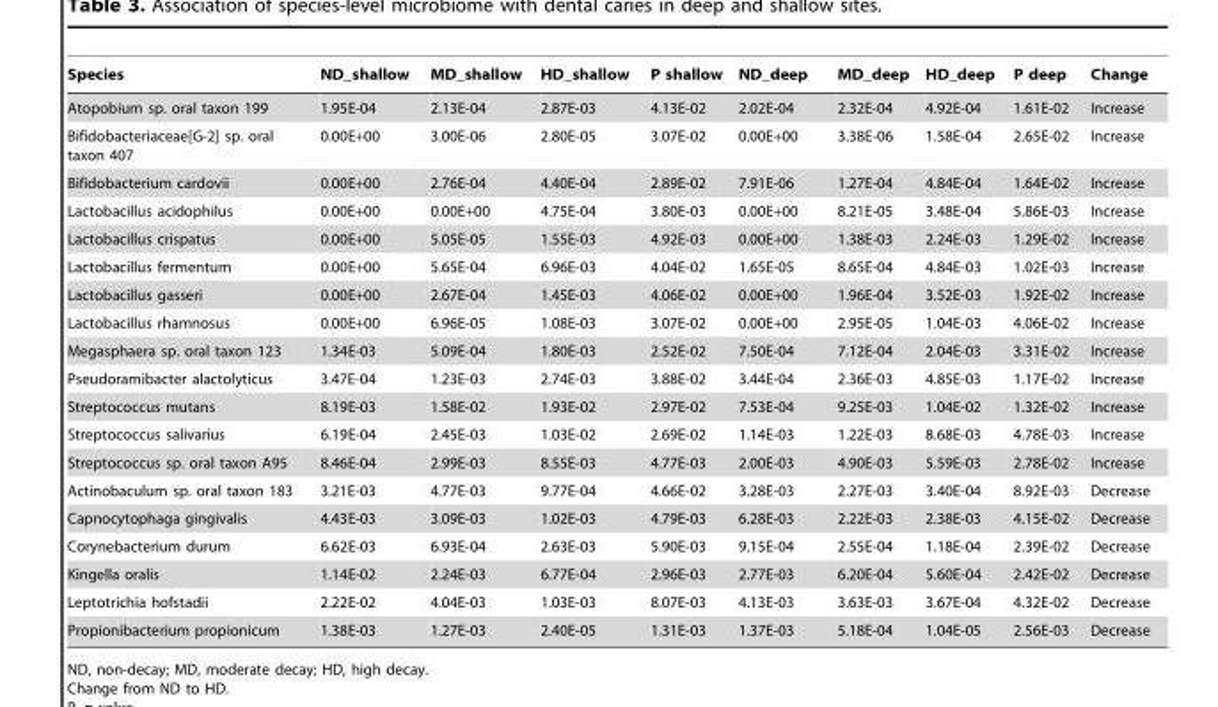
<table><thead><tr><td>Species</td><td>ND_shallow</td><td>MD_shallow</td><td>HD_shallow</td><td>P shallow</td><td>ND_deep</td><td>MD_deep</td><td>HD_deep</td><td>P deep</td><td>Change</td></tr></thead><tbody><tr><td>Atopobium sp. oral taxon 199</td><td>1.95E-04</td><td>2.13E-04</td><td>2.87E-03</td><td>4.13E-02</td><td>2.02E-04</td><td>2.32E-04</td><td>4.92E-04</td><td>1.61E-02</td><td>Increase</td></tr><tr><td>Bifidobacteriaceae[G-2] sp. oral taxon 407</td><td>0.00E+00</td><td>3.00E-06</td><td>2.80E-05</td><td>3.07E-02</td><td>0.00E+00</td><td>3.38E-06</td><td>1.58E-04</td><td>2.65E-02</td><td>Increase</td></tr><tr><td>Bifidobacterium cardovii</td><td>0.00E+00</td><td>2.76E-04</td><td>4.40E-04</td><td>2.89E-02</td><td>7.91E-06</td><td>1.27E-04</td><td>4.84E-04</td><td>1.64E-02</td><td>Increase</td></tr><tr><td>Lactobacillus acidophilus</td><td>0.00E+00</td><td>0.00E+00</td><td>4.75E-04</td><td>3.80E-03</td><td>0.00E+00</td><td>8.21E-05</td><td>3.48E-04</td><td>5.86E-03</td><td>Increase</td></tr><tr><td>Lactobacillus crispatus</td><td>0.00E+00</td><td>5.05E-05</td><td>1.55E-03</td><td>4.92E-03</td><td>0.00E+00</td><td>1.38E-03</td><td>2.24E-03</td><td>1.29E-02</td><td>Increase</td></tr><tr><td>Lactobacillus fermentum</td><td>0.00E+00</td><td>5.65E-04</td><td>6.96E-03</td><td>4.04E-02</td><td>1.65E-05</td><td>8.65E-04</td><td>4.84E-03</td><td>1.02E-03</td><td>Increase</td></tr><tr><td>Lactobacillus gasseri</td><td>0.00E+00</td><td>2.67E-04</td><td>1.45E-03</td><td>4.06E-02</td><td>0.00E+00</td><td>1.96E-04</td><td>3.52E-03</td><td>1.92E-02</td><td>Increase</td></tr><tr><td>Lactobacillus rhamnosus</td><td>0.00E+00</td><td>6.96E-05</td><td>1.08E-03</td><td>3.07E-02</td><td>0.00E+00</td><td>2.95E-05</td><td>1.04E-03</td><td>4.06E-02</td><td>Increase</td></tr><tr><td>Megasphaera sp. oral taxon 123</td><td>1.34E-03</td><td>5.09E-04</td><td>1.80E-03</td><td>2.52E-02</td><td>7.50E-04</td><td>7.12E-04</td><td>2.04E-03</td><td>3.31E-02</td><td>Increase</td></tr><tr><td>Pseudoramibacter alactolyticus</td><td>3.47E-04</td><td>1.23E-03</td><td>2.74E-03</td><td>3.88E-02</td><td>3.44E-04</td><td>2.36E-03</td><td>4.85E-03</td><td>1.17E-02</td><td>Increase</td></tr><tr><td>Streptococcus mutans</td><td>8.19E-03</td><td>1.58E-02</td><td>1.93E-02</td><td>2.97E-02</td><td>7.53E-04</td><td>9.25E-03</td><td>1.04E-02</td><td>1.32E-02</td><td>Increase</td></tr><tr><td>Streptococcus salivarius</td><td>6.19E-04</td><td>2.45E-03</td><td>1.03E-02</td><td>2.69E-02</td><td>1.14E-03</td><td>1.22E-03</td><td>8.68E-03</td><td>4.78E-03</td><td>Increase</td></tr><tr><td>Streptococcus sp. oral taxon A95</td><td>8.46E-04</td><td>2.99E-03</td><td>8.55E-03</td><td>4.77E-03</td><td>2.00E-03</td><td>4.90E-03</td><td>5.59E-03</td><td>2.78E-02</td><td>Increase</td></tr><tr><td>Actinobaculum sp. oral taxon 183</td><td>3.21E-03</td><td>4.77E-03</td><td>9.77E-04</td><td>4.66E-02</td><td>3.28E-03</td><td>2.27E-03</td><td>3.40E-04</td><td>8.92E-03</td><td>Decrease</td></tr><tr><td>Capnocytophaga gingivalis</td><td>4.43E-03</td><td>3.09E-03</td><td>1.02E-03</td><td>4.79E-03</td><td>6.28E-03</td><td>2.22E-03</td><td>2.38E-03</td><td>4.15E-02</td><td>Decrease</td></tr><tr><td>Corynebacterium durum</td><td>6.62E-03</td><td>6.93E-04</td><td>2.63E-03</td><td>5.90E-03</td><td>9.15E-04</td><td>2.55E-04</td><td>1.18E-04</td><td>2.39E-02</td><td>Decrease</td></tr><tr><td>Kingella oralis</td><td>1.14E-02</td><td>2.24E-03</td><td>6.77E-04</td><td>2.96E-03</td><td>2.77E-03</td><td>6.20E-04</td><td>5.60E-04</td><td>2.42E-02</td><td>Decrease</td></tr><tr><td>Leptotrichia hofstadii</td><td>2.22E-02</td><td>4.04E-03</td><td>1.03E-03</td><td>8.07E-03</td><td>4.13E-03</td><td>3.63E-03</td><td>3.67E-04</td><td>4.32E-02</td><td>Decrease</td></tr><tr><td>Propionibacterium propionicum</td><td>1.38E-03</td><td>1.27E-03</td><td>2.40E-05</td><td>1.31E-03</td><td>1.37E-03</td><td>5.18E-04</td><td>1.04E-05</td><td>2.56E-03</td><td>Decrease</td></tr></tbody></table>